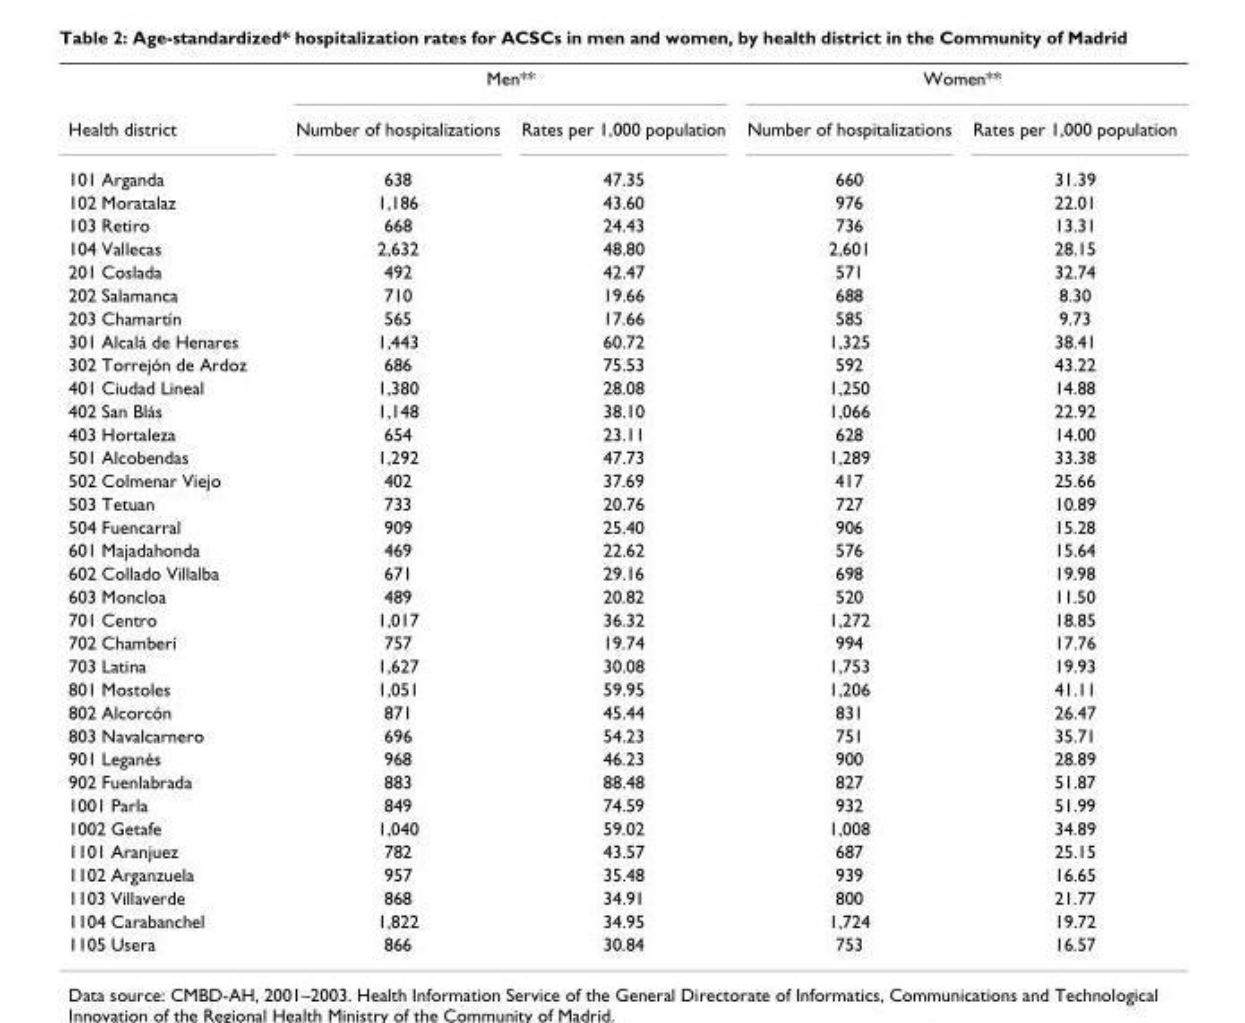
<table><thead><tr><td rowspan="2">Health district</td><td colspan="2">Men**</td><td colspan="2">Women**</td></tr><tr><td>Number of hospitalizations</td><td>Rates per 1,000 population</td><td>Number of hospitalizations</td><td>Rates per 1,000 population</td></tr></thead><tbody><tr><td>101 Arganda</td><td>638</td><td>47.35</td><td>660</td><td>31.39</td></tr><tr><td>102 Moratalaz</td><td>1,186</td><td>43.60</td><td>976</td><td>22.01</td></tr><tr><td>103 Retiro</td><td>668</td><td>24.43</td><td>736</td><td>13.31</td></tr><tr><td>104 Vallecas</td><td>2,632</td><td>48.80</td><td>2,601</td><td>28.15</td></tr><tr><td>201 Coslada</td><td>492</td><td>42.47</td><td>571</td><td>32.74</td></tr><tr><td>202 Salamanca</td><td>710</td><td>19.66</td><td>688</td><td>8.30</td></tr><tr><td>203 Chamartín</td><td>565</td><td>17.66</td><td>585</td><td>9.73</td></tr><tr><td>301 Alcalá de Henares</td><td>1,443</td><td>60.72</td><td>1,325</td><td>38.41</td></tr><tr><td>302 Torrejón de Ardoz</td><td>686</td><td>75.53</td><td>592</td><td>43.22</td></tr><tr><td>401 Ciudad Lineal</td><td>1,380</td><td>28.08</td><td>1,250</td><td>14.88</td></tr><tr><td>402 San Blás</td><td>1,148</td><td>38.10</td><td>1,066</td><td>22.92</td></tr><tr><td>403 Hortaleza</td><td>654</td><td>23.11</td><td>628</td><td>14.00</td></tr><tr><td>501 Alcobendas</td><td>1,292</td><td>47.73</td><td>1,289</td><td>33.38</td></tr><tr><td>502 Colmenar Viejo</td><td>402</td><td>37.69</td><td>417</td><td>25.66</td></tr><tr><td>503 Tetuan</td><td>733</td><td>20.76</td><td>727</td><td>10.89</td></tr><tr><td>504 Fuencarral</td><td>909</td><td>25.40</td><td>906</td><td>15.28</td></tr><tr><td>601 Majadahonda</td><td>469</td><td>22.62</td><td>576</td><td>15.64</td></tr><tr><td>602 Collado Villalba</td><td>671</td><td>29.16</td><td>698</td><td>19.98</td></tr><tr><td>603 Moncloa</td><td>489</td><td>20.82</td><td>520</td><td>11.50</td></tr><tr><td>701 Centro</td><td>1,017</td><td>36.32</td><td>1,272</td><td>18.85</td></tr><tr><td>702 Chamberí</td><td>757</td><td>19.74</td><td>994</td><td>17.76</td></tr><tr><td>703 Latina</td><td>1,627</td><td>30.08</td><td>1,753</td><td>19.93</td></tr><tr><td>801 Mostoles</td><td>1,051</td><td>59.95</td><td>1,206</td><td>41.11</td></tr><tr><td>802 Alcorcón</td><td>871</td><td>45.44</td><td>831</td><td>26.47</td></tr><tr><td>803 Navalcarnero</td><td>696</td><td>54.23</td><td>751</td><td>35.71</td></tr><tr><td>901 Leganés</td><td>968</td><td>46.23</td><td>900</td><td>28.89</td></tr><tr><td>902 Fuenlabrada</td><td>883</td><td>88.48</td><td>827</td><td>51.87</td></tr><tr><td>1001 Parla</td><td>849</td><td>74.59</td><td>932</td><td>51.99</td></tr><tr><td>1002 Getafe</td><td>1,040</td><td>59.02</td><td>1,008</td><td>34.89</td></tr><tr><td>1101 Aranjuez</td><td>782</td><td>43.57</td><td>687</td><td>25.15</td></tr><tr><td>1102 Arganzuela</td><td>957</td><td>35.48</td><td>939</td><td>16.65</td></tr><tr><td>1103 Villaverde</td><td>868</td><td>34.91</td><td>800</td><td>21.77</td></tr><tr><td>1104 Carabanchel</td><td>1,822</td><td>34.95</td><td>1,724</td><td>19.72</td></tr><tr><td>1105 Usera</td><td>866</td><td>30.84</td><td>753</td><td>16.57</td></tr></tbody></table>